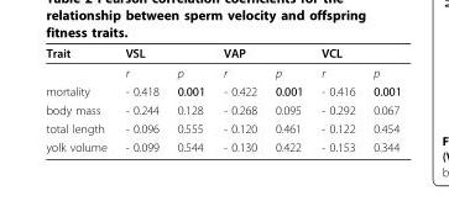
<table><thead><tr><td rowspan="2">Trait</td><td colspan="2">VSL</td><td colspan="2">VAP</td><td colspan="2">VCL</td></tr><tr><td>r</td><td>p</td><td>r</td><td>p</td><td>r</td><td>p</td></tr></thead><tbody><tr><td>mortality</td><td>- 0.418</td><td>0.001</td><td>- 0.422</td><td>0.001</td><td>- 0.416</td><td>0.001</td></tr><tr><td>body mass</td><td>- 0.244</td><td>0.128</td><td>- 0.268</td><td>0.095</td><td>- 0.292</td><td>0.067</td></tr><tr><td>total length</td><td>- 0.096</td><td>0.555</td><td>- 0.120</td><td>0.461</td><td>- 0.122</td><td>0.454</td></tr><tr><td>yolk volume</td><td>- 0.099</td><td>0.544</td><td>- 0.130</td><td>0.422</td><td>- 0.153</td><td>0.344</td></tr></tbody></table>